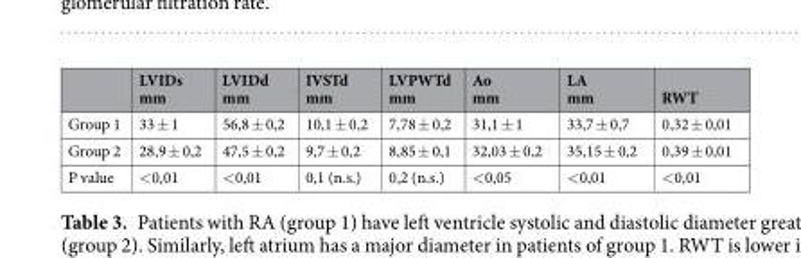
<table><thead><tr><td></td><td>LVIDs mm</td><td>LVIDd mm</td><td>IVSTd mm</td><td>LVPWTd mm</td><td>Ao mm</td><td>LA mm</td><td>RWT</td></tr></thead><tbody><tr><td>Group 1</td><td>33 ± 1</td><td>56,8 ± 0,2</td><td>10,1 ± 0,2</td><td>7,78 ± 0,2</td><td>31,1 ± 1</td><td>33,7 ± 0,7</td><td>0,32 ± 0,01</td></tr><tr><td>Group 2</td><td>28,9 ± 0,2</td><td>47,5 ± 0,2</td><td>9,7 ± 0,2</td><td>8,85 ± 0,1</td><td>32,03 ± 0,2</td><td>35,15 ± 0,2</td><td>0,39 ± 0,01</td></tr><tr><td>P value</td><td>&lt;0,01</td><td>&lt;0,01</td><td>0,1 (n.s.)</td><td>0,2 (n.s.)</td><td>&lt;0,05</td><td>&lt;0,01</td><td>&lt;0,01</td></tr></tbody></table>